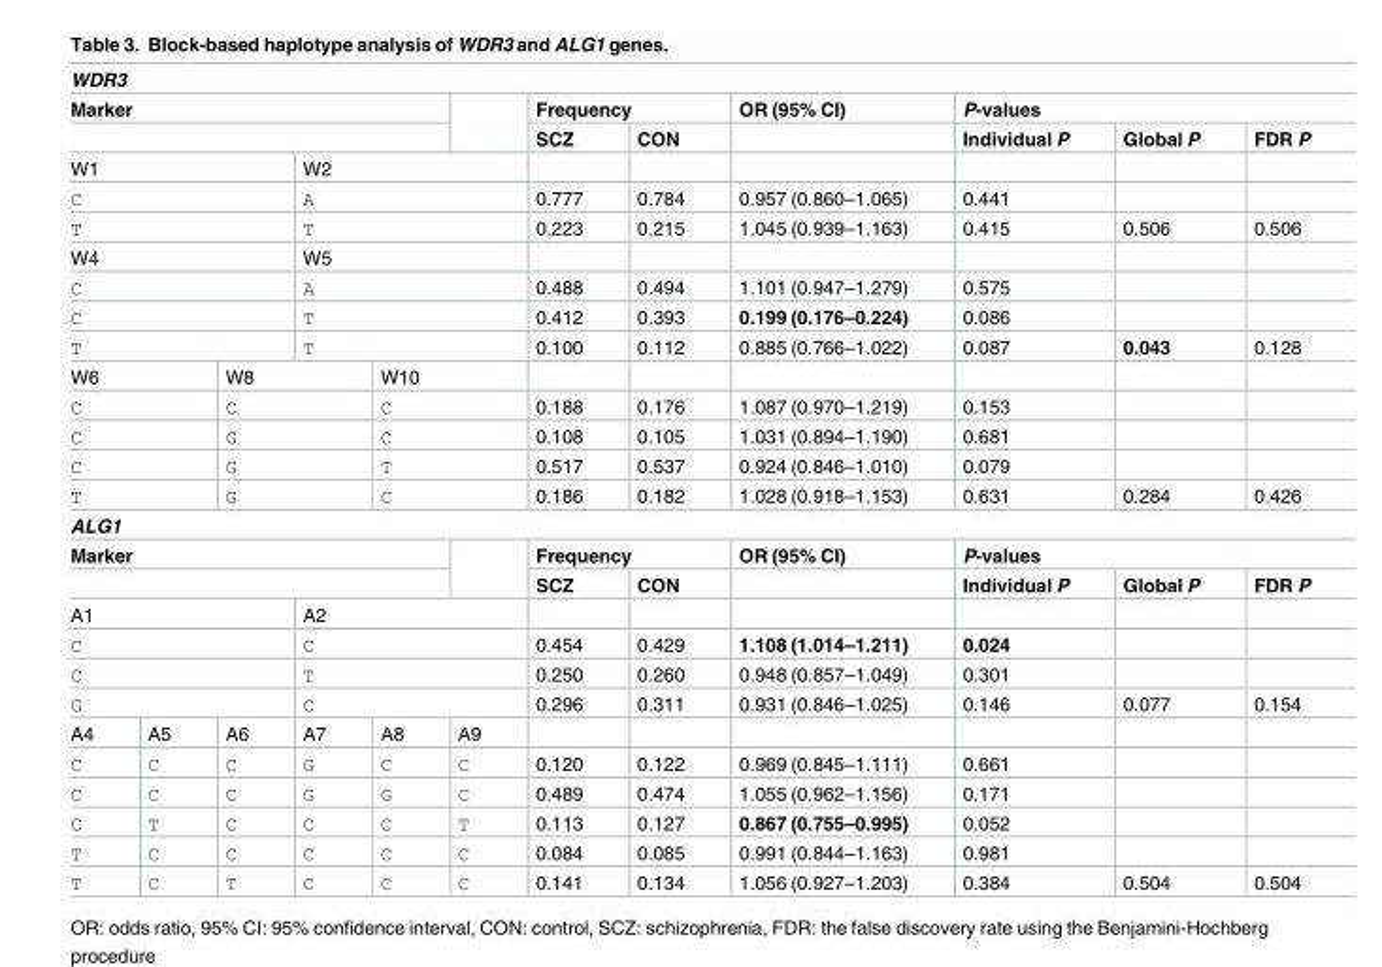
<table><tbody><tr><td colspan="12">WDR3</td></tr><tr><td rowspan="2" colspan="5">Marker</td><td rowspan="2"></td><td colspan="2">Frequency</td><td>OR (95% CI)</td><td colspan="3">P-values</td></tr><tr><td>SCZ</td><td>CON</td><td></td><td>Individual P</td><td>Global P</td><td>FDR P</td></tr><tr><td colspan="3">W1</td><td colspan="3">W2</td><td></td><td></td><td></td><td></td><td></td><td></td></tr><tr><td colspan="3">C</td><td colspan="3">A</td><td>0.777</td><td>0.784</td><td>0.957 (0.860–1.065)</td><td>0.441</td><td></td><td></td></tr><tr><td colspan="3">T</td><td colspan="3">T</td><td>0.223</td><td>0.215</td><td>1.045 (0.939–1.163)</td><td>0.415</td><td>0.506</td><td>0.506</td></tr><tr><td colspan="3">W4</td><td colspan="3">W5</td><td></td><td></td><td></td><td></td><td></td><td></td></tr><tr><td colspan="3">C</td><td colspan="3">A</td><td>0.488</td><td>0.494</td><td>1.101 (0.947–1.279)</td><td>0.575</td><td></td><td></td></tr><tr><td colspan="3">C</td><td colspan="3">T</td><td>0.412</td><td>0.393</td><td>0.199 (0.176–0.224)</td><td>0.086</td><td></td><td></td></tr><tr><td colspan="3">T</td><td colspan="3">T</td><td>0.100</td><td>0.112</td><td>0.885 (0.766–1.022)</td><td>0.087</td><td>0.043</td><td>0.128</td></tr><tr><td colspan="2">W6</td><td colspan="2">W8</td><td colspan="2">W10</td><td></td><td></td><td></td><td></td><td></td><td></td></tr><tr><td colspan="2">C</td><td colspan="2">C</td><td colspan="2">C</td><td>0.188</td><td>0.176</td><td>1.087 (0.970–1.219)</td><td>0.153</td><td></td><td></td></tr><tr><td colspan="2">C</td><td colspan="2">G</td><td colspan="2">C</td><td>0.108</td><td>0.105</td><td>1.031 (0.894–1.190)</td><td>0.681</td><td></td><td></td></tr><tr><td colspan="2">C</td><td colspan="2">G</td><td colspan="2">T</td><td>0.517</td><td>0.537</td><td>0.924 (0.846–1.010)</td><td>0.079</td><td></td><td></td></tr><tr><td colspan="2">T</td><td colspan="2">G</td><td colspan="2">C</td><td>0.186</td><td>0.182</td><td>1.028 (0.918–1.153)</td><td>0.631</td><td>0.284</td><td>0.426</td></tr><tr><td colspan="12">ALG1</td></tr><tr><td rowspan="2" colspan="5">Marker</td><td rowspan="2"></td><td colspan="2">Frequency</td><td>OR (95% CI)</td><td colspan="3">P-values</td></tr><tr><td>SCZ</td><td>CON</td><td></td><td>Individual P</td><td>Global P</td><td>FDR P</td></tr><tr><td colspan="3">A1</td><td colspan="3">A2</td><td></td><td></td><td></td><td></td><td></td><td></td></tr><tr><td colspan="3">C</td><td colspan="3">C</td><td>0.454</td><td>0.429</td><td>1.108 (1.014–1.211)</td><td>0.024</td><td></td><td></td></tr><tr><td colspan="3">C</td><td colspan="3">T</td><td>0.250</td><td>0.260</td><td>0.948 (0.857–1.049)</td><td>0.301</td><td></td><td></td></tr><tr><td colspan="3">G</td><td colspan="3">C</td><td>0.296</td><td>0.311</td><td>0.931 (0.846–1.025)</td><td>0.146</td><td>0.077</td><td>0.154</td></tr><tr><td>A4</td><td>A5</td><td>A6</td><td>A7</td><td>A8</td><td>A9</td><td></td><td></td><td></td><td></td><td></td><td></td></tr><tr><td>C</td><td>C</td><td>C</td><td>G</td><td>C</td><td>C</td><td>0.120</td><td>0.122</td><td>0.969 (0.845–1.111)</td><td>0.661</td><td></td><td></td></tr><tr><td>C</td><td>C</td><td>C</td><td>G</td><td>G</td><td>C</td><td>0.489</td><td>0.474</td><td>1.055 (0.962–1.156)</td><td>0.171</td><td></td><td></td></tr><tr><td>C</td><td>T</td><td>C</td><td>C</td><td>C</td><td>T</td><td>0.113</td><td>0.127</td><td>0.867 (0.755–0.995)</td><td>0.052</td><td></td><td></td></tr><tr><td>T</td><td>C</td><td>C</td><td>C</td><td>C</td><td>C</td><td>0.084</td><td>0.085</td><td>0.991 (0.844–1.163)</td><td>0.981</td><td></td><td></td></tr><tr><td>T</td><td>C</td><td>T</td><td>C</td><td>C</td><td>C</td><td>0.141</td><td>0.134</td><td>1.056 (0.927–1.203)</td><td>0.384</td><td>0.504</td><td>0.504</td></tr></tbody></table>